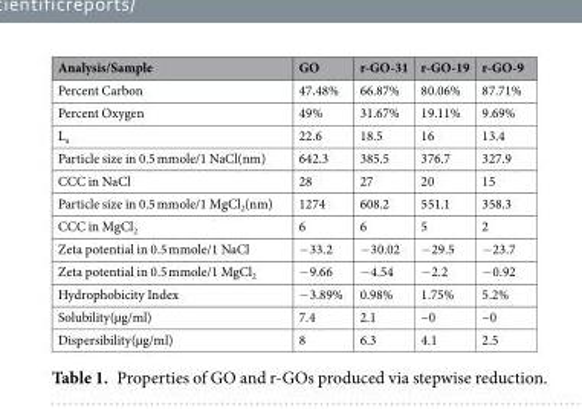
<table><thead><tr><td>Analysis/Sample</td><td>GO</td><td>r-GO-31</td><td>r-GO-19</td><td>r-GO-9</td></tr></thead><tbody><tr><td>Percent Carbon</td><td>47.48%</td><td>66.87%</td><td>80.06%</td><td>87.71%</td></tr><tr><td>Percent Oxygen</td><td>49%</td><td>31.67%</td><td>19.11%</td><td>9.69%</td></tr><tr><td>L<sub>a</sub></td><td>22.6</td><td>18.5</td><td>16</td><td>13.4</td></tr><tr><td>Particle size in 0.5 mmole/1 NaCl(nm)</td><td>642.3</td><td>385.5</td><td>376.7</td><td>327.9</td></tr><tr><td>CCC in NaCl</td><td>28</td><td>27</td><td>20</td><td>15</td></tr><tr><td>Particle size in 0.5 mmole/1 MgCl<sub>2</sub>(nm)</td><td>1274</td><td>608.2</td><td>551.1</td><td>358.3</td></tr><tr><td>CCC in MgCl<sub>2</sub></td><td>6</td><td>6</td><td>5</td><td>2</td></tr><tr><td>Zeta potential in 0.5 mmole/1 NaCl</td><td>−33.2</td><td>−30.02</td><td>−29.5</td><td>−23.7</td></tr><tr><td>Zeta potential in 0.5 mmole/1 MgCl<sub>2</sub></td><td>−9.66</td><td>−4.54</td><td>−2.2</td><td>−0.92</td></tr><tr><td>Hydrophobicity Index</td><td>−3.89%</td><td>0.98%</td><td>1.75%</td><td>5.2%</td></tr><tr><td>Solubility(µg/ml)</td><td>7.4</td><td>2.1</td><td>~0</td><td>~0</td></tr><tr><td>Dispersibility(µg/ml)</td><td>8</td><td>6.3</td><td>4.1</td><td>2.5</td></tr></tbody></table>